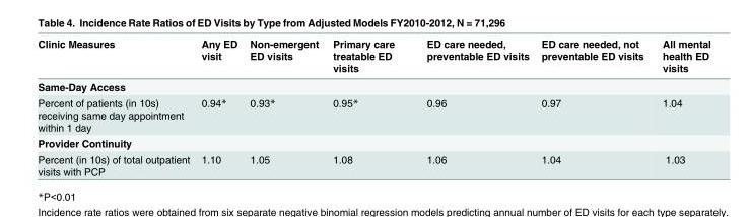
<table><thead><tr><td>Clinic Measures</td><td>Any ED visit</td><td>Non-emergent ED visits</td><td>Primary care treatable ED visits</td><td>ED care needed, preventable ED visits</td><td>ED care needed, not preventable ED visits</td><td>All mental health ED visits</td></tr></thead><tbody><tr><td colspan="7">Same-Day Access</td></tr><tr><td>Percent of patients (in 10s) receiving same day appointment within 1 day</td><td>0.94*</td><td>0.93*</td><td>0.95*</td><td>0.96</td><td>0.97</td><td>1.04</td></tr><tr><td colspan="7">Provider Continuity</td></tr><tr><td>Percent (in 10s) of total outpatient visits with PCP</td><td>1.10</td><td>1.05</td><td>1.08</td><td>1.06</td><td>1.04</td><td>1.03</td></tr></tbody></table>